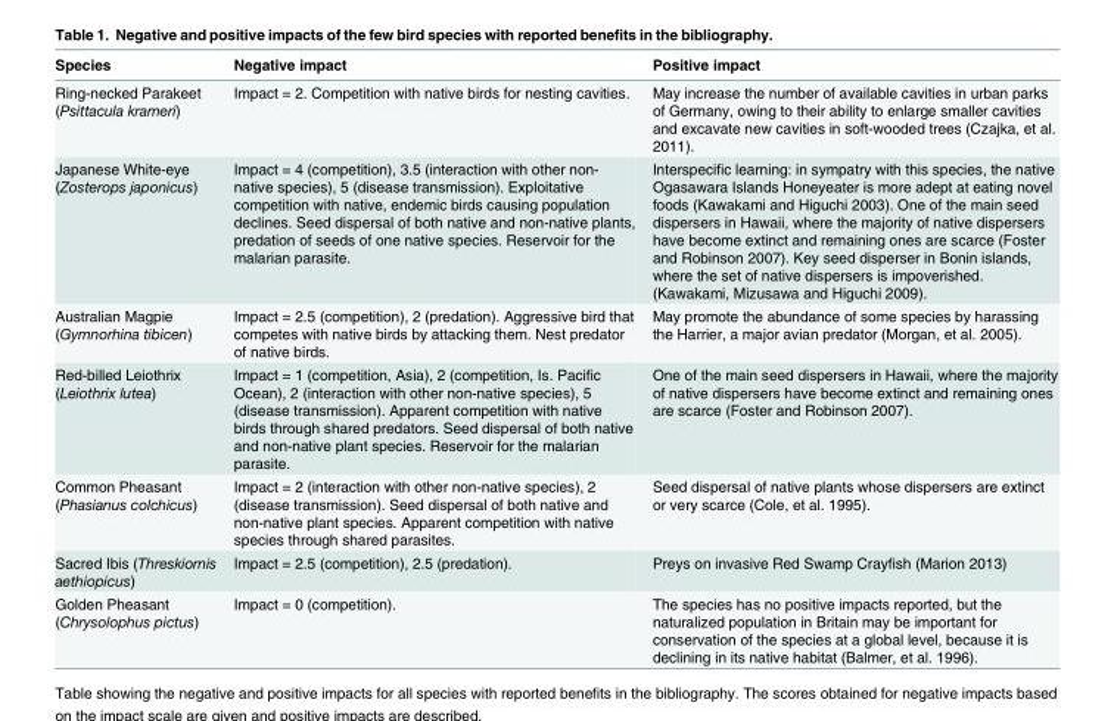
<table><thead><tr><td>Species</td><td>Negative impact</td><td>Positive impact</td></tr></thead><tbody><tr><td>Ring-necked Parakeet (Psittacula krameri)</td><td>Impact = 2. Competition with native birds for nesting cavities.</td><td>May increase the number of available cavities in urban parks of Germany, owing to their ability to enlarge smaller cavities and excavate new cavities in soft-wooded trees (Czajka, et al. 2011).</td></tr><tr><td>Japanese White-eye (Zosterops japonicus)</td><td>Impact = 4 (competition), 3.5 (interaction with other non- native species), 5 (disease transmission). Exploitative competition with native, endemic birds causing population declines. Seed dispersal of both native and non-native plants, predation of seeds of one native species. Reservoir for the malarian parasite.</td><td>Interspecific learning: in sympatry with this species, the native Ogasawara Islands Honeyeater is more adept at eating novel foods (Kawakami and Higuchi 2003). One of the main seed dispersers in Hawaii, where the majority of native dispersers have become extinct and remaining ones are scarce (Foster and Robinson 2007). Key seed disperser in Bonin islands, where the set of native dispersers is impoverished. (Kawakami, Mizusawa and Higuchi 2009).</td></tr><tr><td>Australian Magpie (Gymnorhina tibicen)</td><td>Impact = 2.5 (competition), 2 (predation). Aggressive bird that competes with native birds by attacking them. Nest predator of native birds.</td><td>May promote the abundance of some species by harassing the Harrier, a major avian predator (Morgan, et al. 2005).</td></tr><tr><td>Red-billed Leiothrix (Leiothrix lutea)</td><td>Impact = 1 (competition, Asia), 2 (competition, Is. Pacific Ocean), 2 (interaction with other non-native species), 5 (disease transmission). Apparent competition with native birds through shared predators. Seed dispersal of both native and non-native plant species. Reservoir for the malarian parasite.</td><td>One of the main seed dispersers in Hawaii, where the majority of native dispersers have become extinct and remaining ones are scarce (Foster and Robinson 2007).</td></tr><tr><td>Common Pheasant (Phasianus colchicus)</td><td>Impact = 2 (interaction with other non-native species), 2 (disease transmission). Seed dispersal of both native and non-native plant species. Apparent competition with native species through shared parasites.</td><td>Seed dispersal of native plants whose dispersers are extinct or very scarce (Cole, et al. 1995).</td></tr><tr><td>Sacred Ibis (Threskiornis aethiopicus)</td><td>Impact = 2.5 (competition), 2.5 (predation).</td><td>Preys on invasive Red Swamp Crayfish (Marion 2013)</td></tr><tr><td>Golden Pheasant (Chrysolophus pictus)</td><td>Impact = 0 (competition).</td><td>The species has no positive impacts reported, but the naturalized population in Britain may be important for conservation of the species at a global level, because it is declining in its native habitat (Balmer, et al. 1996).</td></tr></tbody></table>